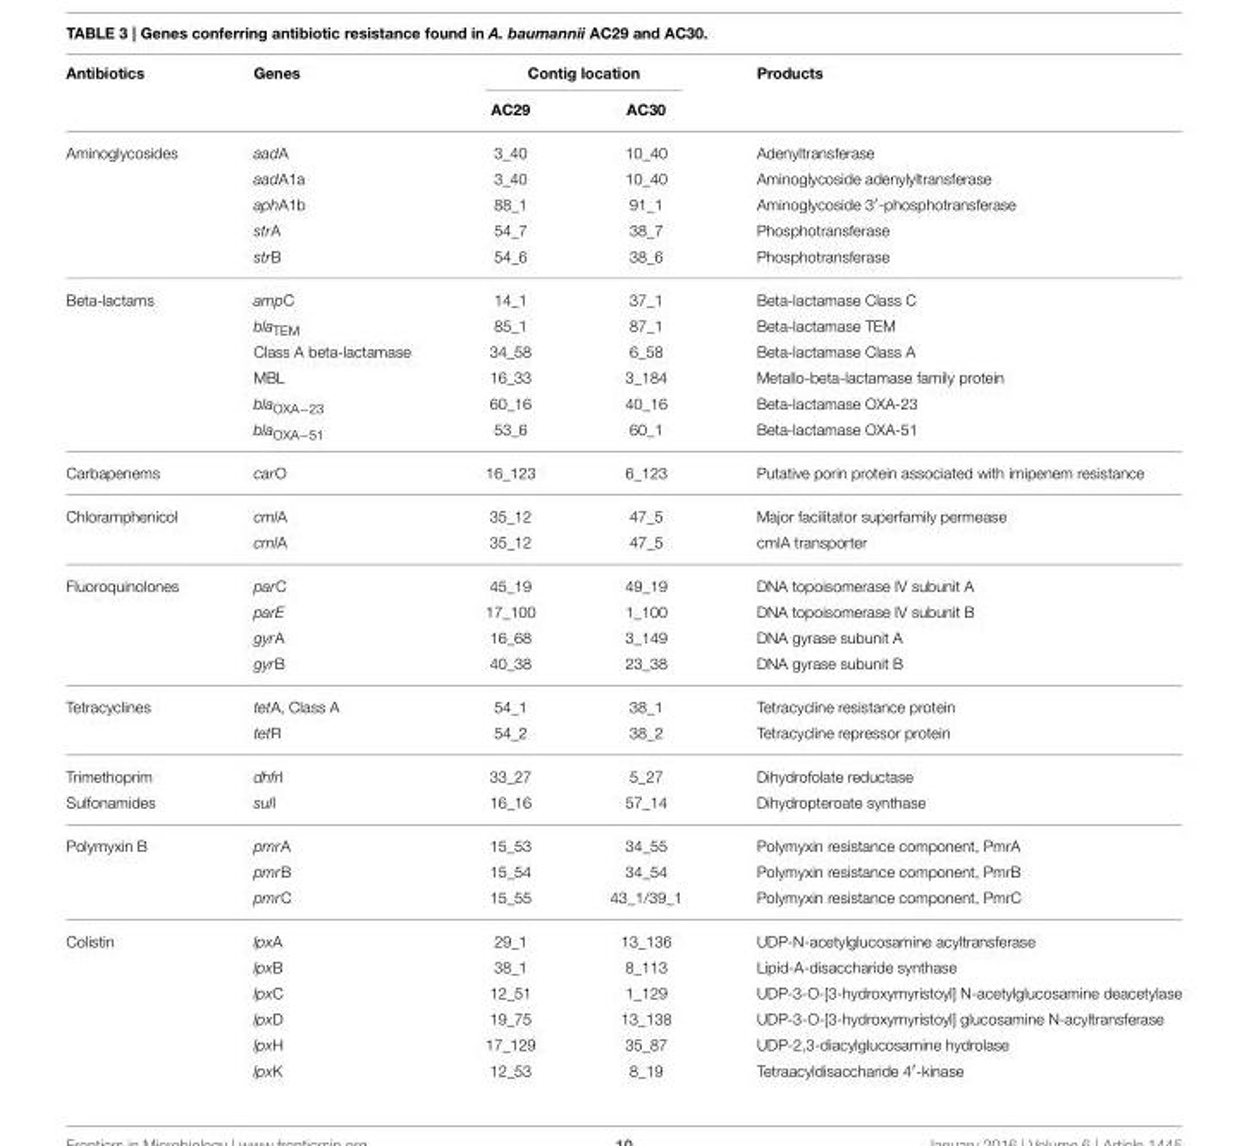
<table><thead><tr><td rowspan="2">Antibiotics</td><td rowspan="2">Genes</td><td colspan="2">Contig location</td><td rowspan="2">Products</td></tr><tr><td>AC29</td><td>AC30</td></tr></thead><tbody><tr><td rowspan="5">Aminoglycosides</td><td>aadA</td><td>3_40</td><td>10_40</td><td>Adenyltransferase</td></tr><tr><td>aadA1a</td><td>3_40</td><td>10_40</td><td>Aminoglycoside adenylyltransferase</td></tr><tr><td>aphA1b</td><td>88_1</td><td>91_1</td><td>Aminoglycoside 3′-phosphotransferase</td></tr><tr><td>strA</td><td>54_7</td><td>38_7</td><td>Phosphotransferase</td></tr><tr><td>strB</td><td>54_6</td><td>38_6</td><td>Phosphotransferase</td></tr><tr><td rowspan="6">Beta-lactams</td><td>ampC</td><td>14_1</td><td>37_1</td><td>Beta-lactamase Class C</td></tr><tr><td>bla<sub>TEM</sub></td><td>85_1</td><td>87_1</td><td>Beta-lactamase TEM</td></tr><tr><td>Class A beta-lactamase</td><td>34_58</td><td>6_58</td><td>Beta-lactamase Class A</td></tr><tr><td>MBL</td><td>16_33</td><td>3_184</td><td>Metallo-beta-lactamase family protein</td></tr><tr><td>bla<sub>OXA−23</sub></td><td>60_16</td><td>40_16</td><td>Beta-lactamase OXA-23</td></tr><tr><td>bla<sub>OXA−51</sub></td><td>53_6</td><td>60_1</td><td>Beta-lactamase OXA-51</td></tr><tr><td>Carbapenems</td><td>carO</td><td>16_123</td><td>6_123</td><td>Putative porin protein associated with imipenem resistance</td></tr><tr><td rowspan="2">Chloramphenicol</td><td>cmlA</td><td>35_12</td><td>47_5</td><td>Major facilitator superfamily permease</td></tr><tr><td>cmlA</td><td>35_12</td><td>47_5</td><td>cmlA transporter</td></tr><tr><td rowspan="4">Fluoroquinolones</td><td>parC</td><td>45_19</td><td>49_19</td><td>DNA topoisomerase IV subunit A</td></tr><tr><td>parE</td><td>17_100</td><td>1_100</td><td>DNA topoisomerase IV subunit B</td></tr><tr><td>gyrA</td><td>16_68</td><td>3_149</td><td>DNA gyrase subunit A</td></tr><tr><td>gyrB</td><td>40_38</td><td>23_38</td><td>DNA gyrase subunit B</td></tr><tr><td rowspan="2">Tetracyclines</td><td>tetA, Class A</td><td>54_1</td><td>38_1</td><td>Tetracycline resistance protein</td></tr><tr><td>tetR</td><td>54_2</td><td>38_2</td><td>Tetracycline repressor protein</td></tr><tr><td>Trimethoprim</td><td>dhfrI</td><td>33_27</td><td>5_27</td><td>Dihydrofolate reductase</td></tr><tr><td>Sulfonamides</td><td>sulI</td><td>16_16</td><td>57_14</td><td>Dihydropteroate synthase</td></tr><tr><td rowspan="3">Polymyxin B</td><td>pmrA</td><td>15_53</td><td>34_55</td><td>Polymyxin resistance component, PmrA</td></tr><tr><td>pmrB</td><td>15_54</td><td>34_54</td><td>Polymyxin resistance component, PmrB</td></tr><tr><td>pmrC</td><td>15_55</td><td>43_1/39_1</td><td>Polymyxin resistance component, PmrC</td></tr><tr><td rowspan="6">Colistin</td><td>lpxA</td><td>29_1</td><td>13_136</td><td>UDP-N-acetylglucosamine acyltransferase</td></tr><tr><td>lpxB</td><td>38_1</td><td>8_113</td><td>Lipid-A-disaccharide synthase</td></tr><tr><td>lpxC</td><td>12_51</td><td>1_129</td><td>UDP-3-O-[3-hydroxymyristoyl] N-acetylglucosamine deacetylase</td></tr><tr><td>lpxD</td><td>19_75</td><td>13_138</td><td>UDP-3-O-[3-hydroxymyristoyl] glucosamine N-acyltransferase</td></tr><tr><td>lpxH</td><td>17_129</td><td>35_87</td><td>UDP-2,3-diacylglucosamine hydrolase</td></tr><tr><td>lpxK</td><td>12_53</td><td>8_19</td><td>Tetraacyldisaccharide 4′-kinase</td></tr></tbody></table>